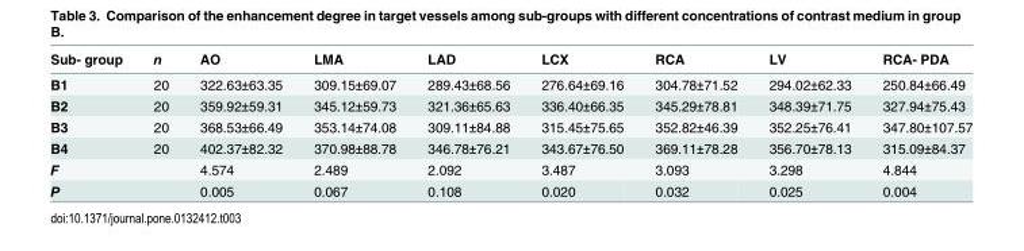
<table><thead><tr><td>Sub- group</td><td>n</td><td>AO</td><td>LMA</td><td>LAD</td><td>LCX</td><td>RCA</td><td>LV</td><td>RCA- PDA</td></tr></thead><tbody><tr><td>B1</td><td>20</td><td>322.63±63.35</td><td>309.15±69.07</td><td>289.43±68.56</td><td>276.64±69.16</td><td>304.78±71.52</td><td>294.02±62.33</td><td>250.84±66.49</td></tr><tr><td>B2</td><td>20</td><td>359.92±59.31</td><td>345.12±59.73</td><td>321.36±65.63</td><td>336.40±66.35</td><td>345.29±78.81</td><td>348.39±71.75</td><td>327.94±75.43</td></tr><tr><td>B3</td><td>20</td><td>368.53±66.49</td><td>353.14±74.08</td><td>309.11±84.88</td><td>315.45±75.65</td><td>352.82±46.39</td><td>352.25±76.41</td><td>347.80±107.57</td></tr><tr><td>B4</td><td>20</td><td>402.37±82.32</td><td>370.98±88.78</td><td>346.78±76.21</td><td>343.67±76.50</td><td>369.11±78.28</td><td>356.70±78.13</td><td>315.09±84.37</td></tr><tr><td>F</td><td></td><td>4.574</td><td>2.489</td><td>2.092</td><td>3.487</td><td>3.093</td><td>3.298</td><td>4.844</td></tr><tr><td>P</td><td></td><td>0.005</td><td>0.067</td><td>0.108</td><td>0.020</td><td>0.032</td><td>0.025</td><td>0.004</td></tr></tbody></table>